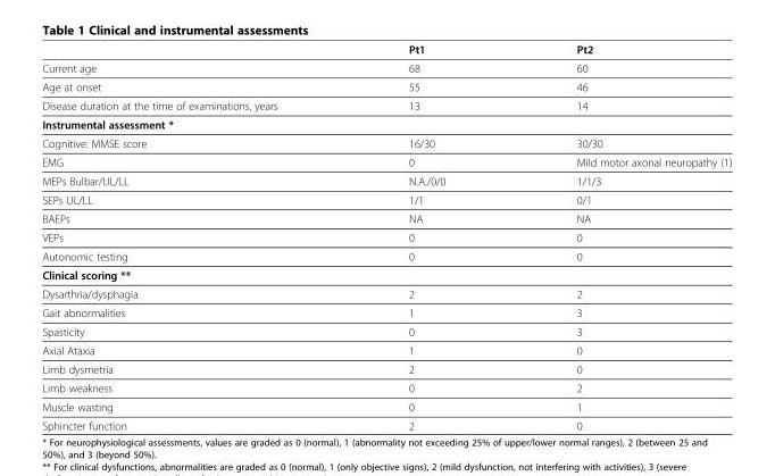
<table><thead><tr><td></td><td>Pt1</td><td>Pt2</td></tr></thead><tbody><tr><td>Current age</td><td>68</td><td>60</td></tr><tr><td>Age at onset</td><td>55</td><td>46</td></tr><tr><td>Disease duration at the time of examinations, years</td><td>13</td><td>14</td></tr><tr><td colspan="3">Instrumental assessment *</td></tr><tr><td>Cognitive: MMSE score</td><td>16/30</td><td>30/30</td></tr><tr><td>EMG</td><td>0</td><td>Mild motor axonal neuropathy (1)</td></tr><tr><td>MEPs Bulbar/UL/LL</td><td>N.A./0/0</td><td>1/1/3</td></tr><tr><td>SEPs UL/LL</td><td>1/1</td><td>0/1</td></tr><tr><td>BAEPs</td><td>NA</td><td>NA</td></tr><tr><td>VEPs</td><td>0</td><td>0</td></tr><tr><td>Autonomic testing</td><td>0</td><td>0</td></tr><tr><td colspan="3">Clinical scoring **</td></tr><tr><td>Dysarthria/dysphagia</td><td>2</td><td>2</td></tr><tr><td>Gait abnormalities</td><td>1</td><td>3</td></tr><tr><td>Spasticity</td><td>0</td><td>3</td></tr><tr><td>Axial Ataxia</td><td>1</td><td>0</td></tr><tr><td>Limb dysmetria</td><td>2</td><td>0</td></tr><tr><td>Limb weakness</td><td>0</td><td>2</td></tr><tr><td>Muscle wasting</td><td>0</td><td>1</td></tr><tr><td>Sphincter function</td><td>2</td><td>0</td></tr></tbody></table>